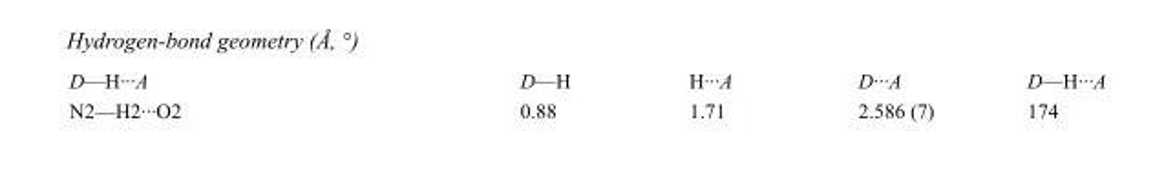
<table><tbody><tr><td>D—H···A</td><td>D—H</td><td>H···A</td><td>D···A</td><td>D—H···A</td></tr><tr><td>N2—H2···O2</td><td>0.88</td><td>1.71</td><td>2.586 (7)</td><td>174</td></tr></tbody></table>